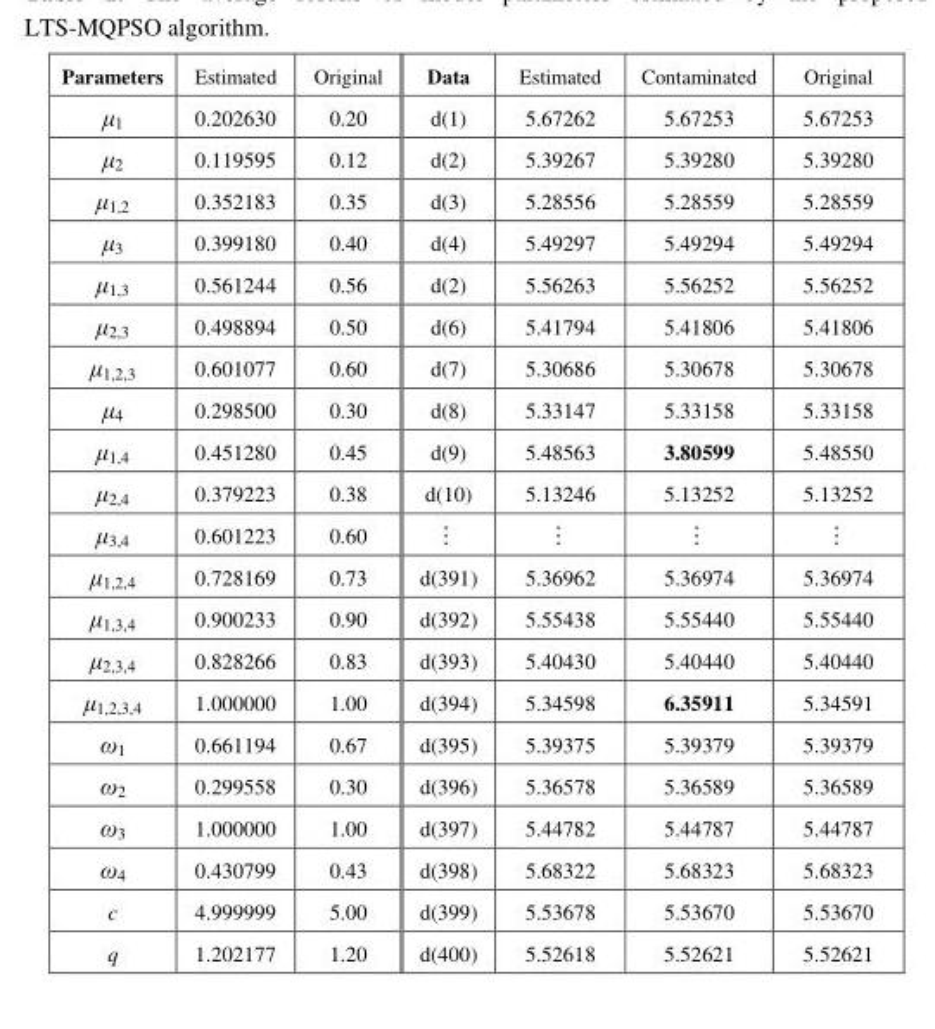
<table><thead><tr><td>Parameters</td><td>Estimated</td><td>Original</td><td>Data</td><td>Estimated</td><td>Contaminated</td><td>Original</td></tr></thead><tbody><tr><td>μ<sub>1</sub></td><td>0.202630</td><td>0.20</td><td>d(1)</td><td>5.67262</td><td>5.67253</td><td>5.67253</td></tr><tr><td>μ<sub>2</sub></td><td>0.119595</td><td>0.12</td><td>d(2)</td><td>5.39267</td><td>5.39280</td><td>5.39280</td></tr><tr><td>μ<sub>1,2</sub></td><td>0.352183</td><td>0.35</td><td>d(3)</td><td>5.28556</td><td>5.28559</td><td>5.28559</td></tr><tr><td>μ<sub>3</sub></td><td>0.399180</td><td>0.40</td><td>d(4)</td><td>5.49297</td><td>5.49294</td><td>5.49294</td></tr><tr><td>μ<sub>1,3</sub></td><td>0.561244</td><td>0.56</td><td>d(2)</td><td>5.56263</td><td>5.56252</td><td>5.56252</td></tr><tr><td>μ<sub>2,3</sub></td><td>0.498894</td><td>0.50</td><td>d(6)</td><td>5.41794</td><td>5.41806</td><td>5.41806</td></tr><tr><td>μ<sub>1,2,3</sub></td><td>0.601077</td><td>0.60</td><td>d(7)</td><td>5.30686</td><td>5.30678</td><td>5.30678</td></tr><tr><td>μ<sub>4</sub></td><td>0.298500</td><td>0.30</td><td>d(8)</td><td>5.33147</td><td>5.33158</td><td>5.33158</td></tr><tr><td>μ<sub>1,4</sub></td><td>0.451280</td><td>0.45</td><td>d(9)</td><td>5.48563</td><td>3.80599</td><td>5.48550</td></tr><tr><td>μ<sub>2,4</sub></td><td>0.379223</td><td>0.38</td><td>d(10)</td><td>5.13246</td><td>5.13252</td><td>5.13252</td></tr><tr><td>μ<sub>3,4</sub></td><td>0.601223</td><td>0.60</td><td></td><td></td><td></td><td></td></tr><tr><td>μ<sub>1,2,4</sub></td><td>0.728169</td><td>0.73</td><td>d(391)</td><td>5.36962</td><td>5.36974</td><td>5.36974</td></tr><tr><td>μ<sub>1,3,4</sub></td><td>0.900233</td><td>0.90</td><td>d(392)</td><td>5.55438</td><td>5.55440</td><td>5.55440</td></tr><tr><td>μ<sub>2,3,4</sub></td><td>0.828266</td><td>0.83</td><td>d(393)</td><td>5.40430</td><td>5.40440</td><td>5.40440</td></tr><tr><td>μ<sub>1,2,3,4</sub></td><td>1.000000</td><td>1.00</td><td>d(394)</td><td>5.34598</td><td>6.35911</td><td>5.34591</td></tr><tr><td>ω<sub>1</sub></td><td>0.661194</td><td>0.67</td><td>d(395)</td><td>5.39375</td><td>5.39379</td><td>5.39379</td></tr><tr><td>ω<sub>2</sub></td><td>0.299558</td><td>0.30</td><td>d(396)</td><td>5.36578</td><td>5.36589</td><td>5.36589</td></tr><tr><td>ω<sub>3</sub></td><td>1.000000</td><td>1.00</td><td>d(397)</td><td>5.44782</td><td>5.44787</td><td>5.44787</td></tr><tr><td>ω<sub>4</sub></td><td>0.430799</td><td>0.43</td><td>d(398)</td><td>5.68322</td><td>5.68323</td><td>5.68323</td></tr><tr><td>c</td><td>4.999999</td><td>5.00</td><td>d(399)</td><td>5.53678</td><td>5.53670</td><td>5.53670</td></tr><tr><td>q</td><td>1.202177</td><td>1.20</td><td>d(400)</td><td>5.52618</td><td>5.52621</td><td>5.52621</td></tr></tbody></table>